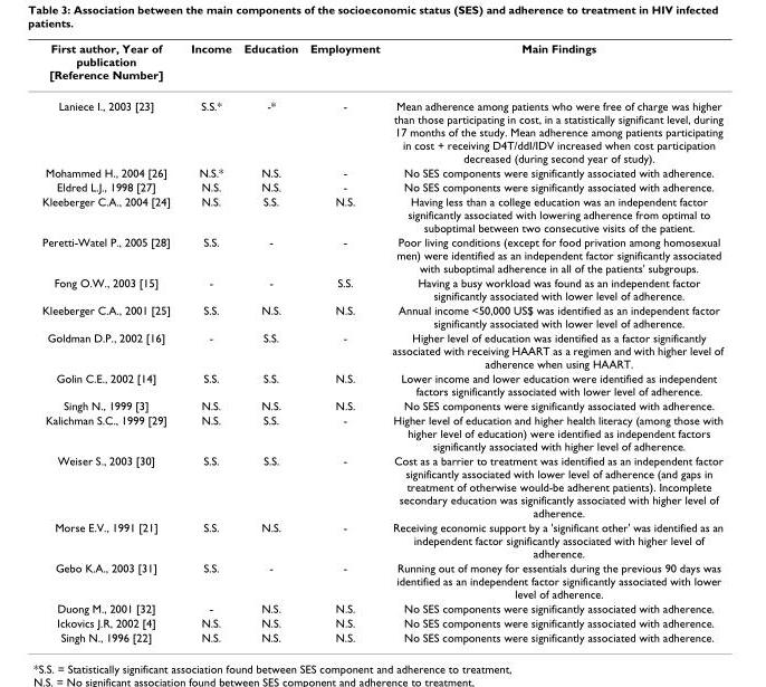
<table><thead><tr><td>First author, Year of publication [Reference Number]</td><td>Income</td><td>Education</td><td>Employment</td><td>Main Findings</td></tr></thead><tbody><tr><td>Laniece I., 2003 [23]</td><td>S.S.*</td><td>-*</td><td>-</td><td>Mean adherence among patients who were free of charge was higher than those participating in cost, in a statistically significant level, during 17 months of the study. Mean adherence among patients participating in cost + receiving D4T/ddI/IDV increased when cost participation decreased (during second year of study).</td></tr><tr><td>Mohammed H., 2004 [26]</td><td>N.S.*</td><td>N.S.</td><td>-</td><td>No SES components were significantly associated with adherence.</td></tr><tr><td>Eldred L.J., 1998 [27]</td><td>N.S.</td><td>N.S.</td><td>-</td><td>No SES components were significantly associated with adherence.</td></tr><tr><td>Kleeberger C.A., 2004 [24]</td><td>N.S.</td><td>S.S.</td><td>N.S.</td><td>Having less than a college education was an independent factor significantly associated with lowering adherence from optimal to suboptimal between two consecutive visits of the patient.</td></tr><tr><td>Peretti-Watel P., 2005 [28]</td><td>S.S.</td><td>-</td><td>-</td><td>Poor living conditions (except for food privation among homosexual men) were identified as an independent factor significantly associated with suboptimal adherence in all of the patients&#x27; subgroups.</td></tr><tr><td>Fong O.W., 2003 [15]</td><td>-</td><td>-</td><td>S.S.</td><td>Having a busy workload was found as an independent factor significantly associated with lower level of adherence.</td></tr><tr><td>Kleeberger C.A., 2001 [25]</td><td>S.S.</td><td>N.S.</td><td>N.S.</td><td>Annual income &lt;50,000 US$ was identified as an independent factor significantly associated with lower level of adherence.</td></tr><tr><td>Goldman D.P., 2002 [16]</td><td>-</td><td>S.S.</td><td>-</td><td>Higher level of education was identified as a factor significantly associated with receiving HAART as a regimen and with higher level of adherence when using HAART.</td></tr><tr><td>Golin C.E., 2002 [14]</td><td>S.S.</td><td>S.S.</td><td>N.S.</td><td>Lower income and lower education were identified as independent factors significantly associated with lower level of adherence.</td></tr><tr><td>Singh N., 1999 [3]</td><td>N.S.</td><td>N.S.</td><td>N.S.</td><td>No SES components were significantly associated with adherence.</td></tr><tr><td>Kalichman S.C., 1999 [29]</td><td>N.S.</td><td>S.S.</td><td>-</td><td>Higher level of education and higher health literacy (among those with higher level of education) were identified as independent factors significantly associated with higher level of adherence.</td></tr><tr><td>Weiser S., 2003 [30]</td><td>S.S.</td><td>S.S.</td><td>-</td><td>Cost as a barrier to treatment was identified as an independent factor significantly associated with lower level of adherence (and gaps in treatment of otherwise would-be adherent patients). Incomplete secondary education was significantly associated with higher level of adherence.</td></tr><tr><td>Morse E.V., 1991 [21]</td><td>S.S.</td><td>N.S.</td><td>-</td><td>Receiving economic support by a &#x27;significant other&#x27; was identified as an independent factor significantly associated with higher level of adherence.</td></tr><tr><td>Gebo K.A., 2003 [31]</td><td>S.S.</td><td>-</td><td>-</td><td>Running out of money for essentials during the previous 90 days was identified as an independent factor significantly associated with lower level of adherence.</td></tr><tr><td>Duong M., 2001 [32]</td><td>-</td><td>N.S.</td><td>N.S.</td><td>No SES components were significantly associated with adherence.</td></tr><tr><td>Ickovics J.R, 2002 [4]</td><td>N.S.</td><td>N.S.</td><td>N.S.</td><td>No SES components were significantly associated with adherence.</td></tr><tr><td>Singh N., 1996 [22]</td><td>N.S.</td><td>N.S.</td><td>N.S.</td><td>No SES components were significantly associated with adherence.</td></tr></tbody></table>